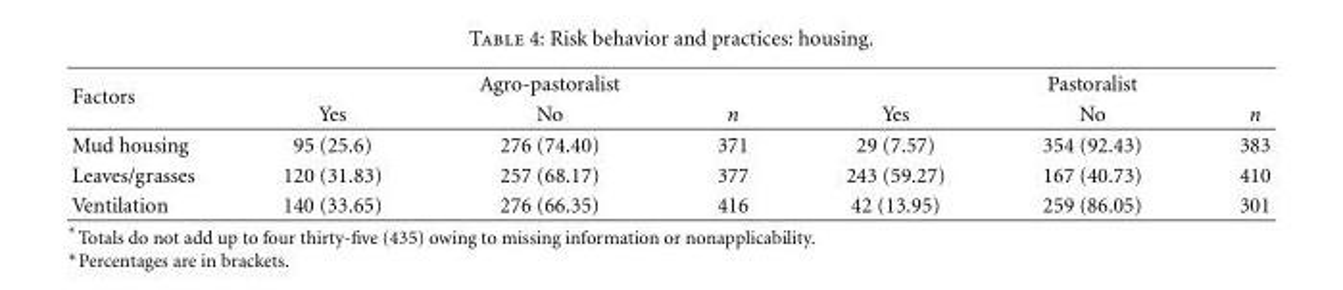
<table><thead><tr><td rowspan="2">Factors</td><td rowspan="2">Yes</td><td rowspan="2">Agro-pastoralist No</td><td rowspan="2">n</td><td rowspan="2">Yes</td><td rowspan="2">Pastoralist No</td><td rowspan="2">n</td></tr><tr></tr></thead><tbody><tr><td>Mud housing</td><td>95 (25.6)</td><td>276 (74.40)</td><td>371</td><td>29 (7.57)</td><td>354 (92.43)</td><td>383</td></tr><tr><td>Leaves/grasses</td><td>120 (31.83)</td><td>257 (68.17)</td><td>377</td><td>243 (59.27)</td><td>167 (40.73)</td><td>410</td></tr><tr><td>Ventilation</td><td>140 (33.65)</td><td>276 (66.35)</td><td>416</td><td>42 (13.95)</td><td>259 (86.05)</td><td>301</td></tr></tbody></table>